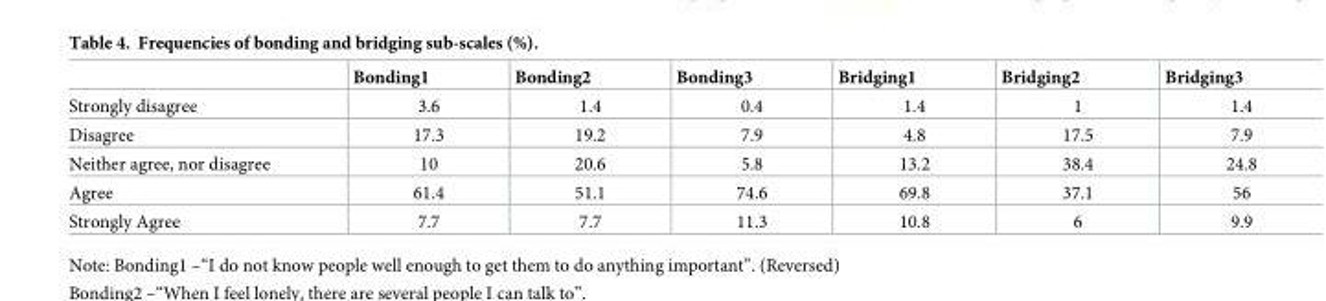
<table><thead><tr><td></td><td>Bonding1</td><td>Bonding2</td><td>Bonding3</td><td>Bridging1</td><td>Bridging2</td><td>Bridging3</td></tr></thead><tbody><tr><td>Strongly disagree</td><td>3.6</td><td>1.4</td><td>0.4</td><td>1.4</td><td>1</td><td>1.4</td></tr><tr><td>Disagree</td><td>17.3</td><td>19.2</td><td>7.9</td><td>4.8</td><td>17.5</td><td>7.9</td></tr><tr><td>Neither agree, nor disagree</td><td>10</td><td>20.6</td><td>5.8</td><td>13.2</td><td>38.4</td><td>24.8</td></tr><tr><td>Agree</td><td>61.4</td><td>51.1</td><td>74.6</td><td>69.8</td><td>37.1</td><td>56</td></tr><tr><td>Strongly Agree</td><td>7.7</td><td>7.7</td><td>11.3</td><td>10.8</td><td>6</td><td>9.9</td></tr></tbody></table>